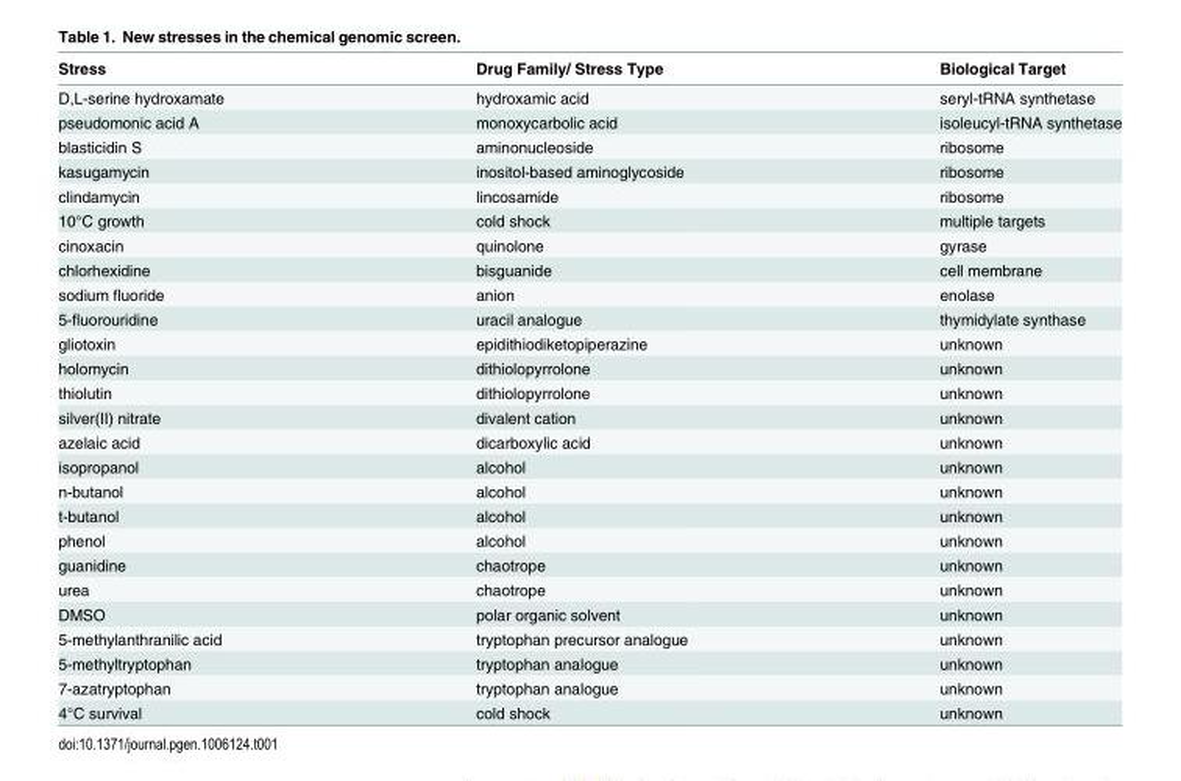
<table><thead><tr><td>Stress</td><td>Drug Family/ Stress Type</td><td>Biological Target</td></tr></thead><tbody><tr><td>D,L-serine hydroxamate</td><td>hydroxamic acid</td><td>seryl-tRNA synthetase</td></tr><tr><td>pseudomonic acid A</td><td>monoxycarbolic acid</td><td>isoleucyl-tRNA synthetase</td></tr><tr><td>blasticidin S</td><td>aminonucleoside</td><td>ribosome</td></tr><tr><td>kasugamycin</td><td>inositol-based aminoglycoside</td><td>ribosome</td></tr><tr><td>clindamycin</td><td>lincosamide</td><td>ribosome</td></tr><tr><td>10°C growth</td><td>cold shock</td><td>multiple targets</td></tr><tr><td>cinoxacin</td><td>quinolone</td><td>gyrase</td></tr><tr><td>chlorhexidine</td><td>bisguanide</td><td>cell membrane</td></tr><tr><td>sodium fluoride</td><td>anion</td><td>enolase</td></tr><tr><td>5-fluorouridine</td><td>uracil analogue</td><td>thymidylate synthase</td></tr><tr><td>gliotoxin</td><td>epidithiodiketopiperazine</td><td>unknown</td></tr><tr><td>holomycin</td><td>dithiolopyrrolone</td><td>unknown</td></tr><tr><td>thiolutin</td><td>dithiolopyrrolone</td><td>unknown</td></tr><tr><td>silver(II) nitrate</td><td>divalent cation</td><td>unknown</td></tr><tr><td>azelaic acid</td><td>dicarboxylic acid</td><td>unknown</td></tr><tr><td>isopropanol</td><td>alcohol</td><td>unknown</td></tr><tr><td>n-butanol</td><td>alcohol</td><td>unknown</td></tr><tr><td>t-butanol</td><td>alcohol</td><td>unknown</td></tr><tr><td>phenol</td><td>alcohol</td><td>unknown</td></tr><tr><td>guanidine</td><td>chaotrope</td><td>unknown</td></tr><tr><td>urea</td><td>chaotrope</td><td>unknown</td></tr><tr><td>DMSO</td><td>polar organic solvent</td><td>unknown</td></tr><tr><td>5-methylanthranilic acid</td><td>tryptophan precursor analogue</td><td>unknown</td></tr><tr><td>5-methyltryptophan</td><td>tryptophan analogue</td><td>unknown</td></tr><tr><td>7-azatryptophan</td><td>tryptophan analogue</td><td>unknown</td></tr><tr><td>4°C survival</td><td>cold shock</td><td>unknown</td></tr></tbody></table>